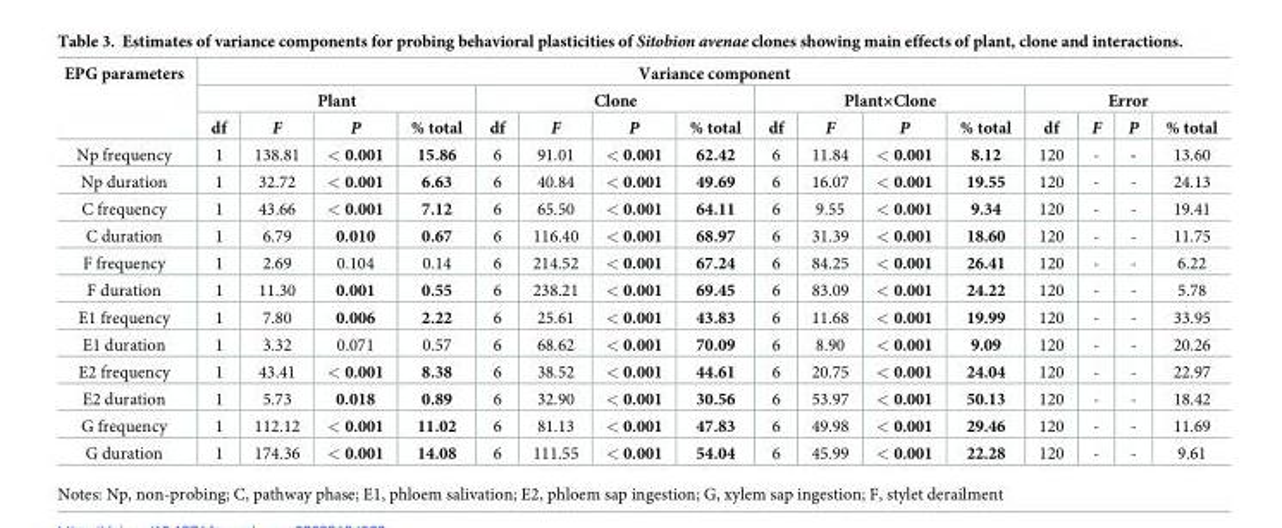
<table><thead><tr><td rowspan="3">EPG parameters</td><td colspan="16">Variance component</td></tr><tr><td colspan="4">Plant</td><td colspan="4">Clone</td><td colspan="4">Plant×Clone</td><td colspan="4">Error</td></tr><tr><td>df</td><td>F</td><td>P</td><td>% total</td><td>df</td><td>F</td><td>P</td><td>% total</td><td>df</td><td>F</td><td>P</td><td>% total</td><td>df</td><td>F</td><td>P</td><td>% total</td></tr></thead><tbody><tr><td>Np frequency</td><td>1</td><td>138.81</td><td>&lt; 0.001</td><td>15.86</td><td>6</td><td>91.01</td><td>&lt; 0.001</td><td>62.42</td><td>6</td><td>11.84</td><td>&lt; 0.001</td><td>8.12</td><td>120</td><td>-</td><td>-</td><td>13.60</td></tr><tr><td>Np duration</td><td>1</td><td>32.72</td><td>&lt; 0.001</td><td>6.63</td><td>6</td><td>40.84</td><td>&lt; 0.001</td><td>49.69</td><td>6</td><td>16.07</td><td>&lt; 0.001</td><td>19.55</td><td>120</td><td>-</td><td>-</td><td>24.13</td></tr><tr><td>C frequency</td><td>1</td><td>43.66</td><td>&lt; 0.001</td><td>7.12</td><td>6</td><td>65.50</td><td>&lt; 0.001</td><td>64.11</td><td>6</td><td>9.55</td><td>&lt; 0.001</td><td>9.34</td><td>120</td><td>-</td><td>-</td><td>19.41</td></tr><tr><td>C duration</td><td>1</td><td>6.79</td><td>0.010</td><td>0.67</td><td>6</td><td>116.40</td><td>&lt; 0.001</td><td>68.97</td><td>6</td><td>31.39</td><td>&lt; 0.001</td><td>18.60</td><td>120</td><td>-</td><td>-</td><td>11.75</td></tr><tr><td>F frequency</td><td>1</td><td>2.69</td><td>0.104</td><td>0.14</td><td>6</td><td>214.52</td><td>&lt; 0.001</td><td>67.24</td><td>6</td><td>84.25</td><td>&lt; 0.001</td><td>26.41</td><td>120</td><td>-</td><td>-</td><td>6.22</td></tr><tr><td>F duration</td><td>1</td><td>11.30</td><td>0.001</td><td>0.55</td><td>6</td><td>238.21</td><td>&lt; 0.001</td><td>69.45</td><td>6</td><td>83.09</td><td>&lt; 0.001</td><td>24.22</td><td>120</td><td>-</td><td>-</td><td>5.78</td></tr><tr><td>E1 frequency</td><td>1</td><td>7.80</td><td>0.006</td><td>2.22</td><td>6</td><td>25.61</td><td>&lt; 0.001</td><td>43.83</td><td>6</td><td>11.68</td><td>&lt; 0.001</td><td>19.99</td><td>120</td><td>-</td><td>-</td><td>33.95</td></tr><tr><td>E1 duration</td><td>1</td><td>3.32</td><td>0.071</td><td>0.57</td><td>6</td><td>68.62</td><td>&lt; 0.001</td><td>70.09</td><td>6</td><td>8.90</td><td>&lt; 0.001</td><td>9.09</td><td>120</td><td>-</td><td>-</td><td>20.26</td></tr><tr><td>E2 frequency</td><td>1</td><td>43.41</td><td>&lt; 0.001</td><td>8.38</td><td>6</td><td>38.52</td><td>&lt; 0.001</td><td>44.61</td><td>6</td><td>20.75</td><td>&lt; 0.001</td><td>24.04</td><td>120</td><td>-</td><td>-</td><td>22.97</td></tr><tr><td>E2 duration</td><td>1</td><td>5.73</td><td>0.018</td><td>0.89</td><td>6</td><td>32.90</td><td>&lt; 0.001</td><td>30.56</td><td>6</td><td>53.97</td><td>&lt; 0.001</td><td>50.13</td><td>120</td><td>-</td><td>-</td><td>18.42</td></tr><tr><td>G frequency</td><td>1</td><td>112.12</td><td>&lt; 0.001</td><td>11.02</td><td>6</td><td>81.13</td><td>&lt; 0.001</td><td>47.83</td><td>6</td><td>49.98</td><td>&lt; 0.001</td><td>29.46</td><td>120</td><td>-</td><td>-</td><td>11.69</td></tr><tr><td>G duration</td><td>1</td><td>174.36</td><td>&lt; 0.001</td><td>14.08</td><td>6</td><td>111.55</td><td>&lt; 0.001</td><td>54.04</td><td>6</td><td>45.99</td><td>&lt; 0.001</td><td>22.28</td><td>120</td><td>-</td><td>-</td><td>9.61</td></tr></tbody></table>